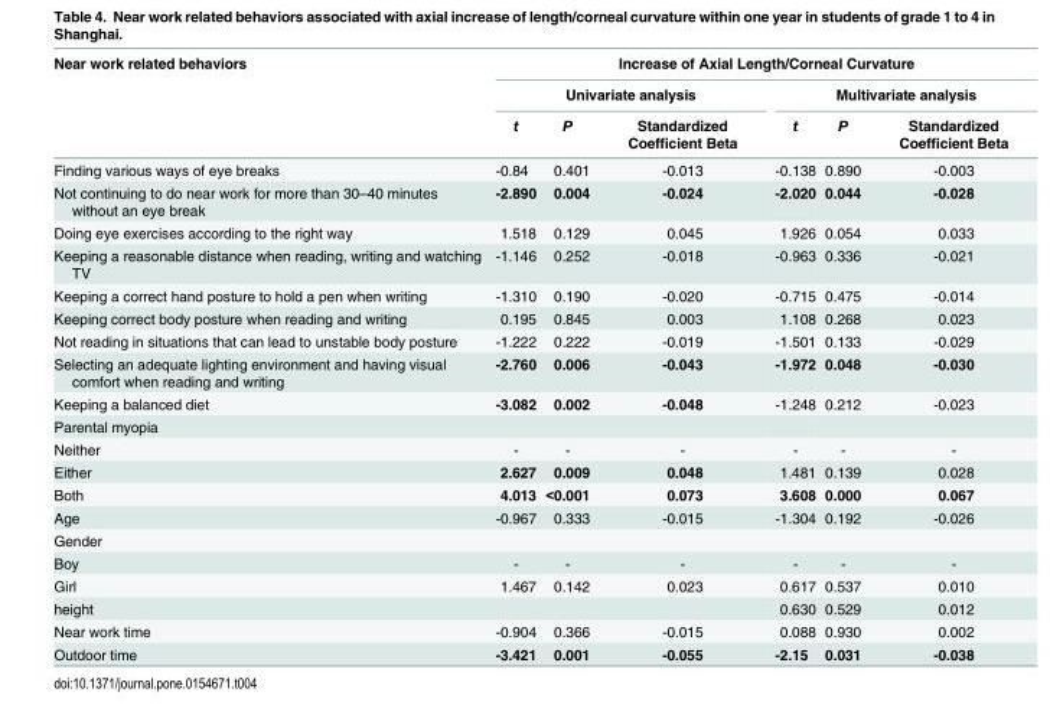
<table><thead><tr><td rowspan="3">Near work related behaviors</td><td colspan="6">Increase of Axial Length/Corneal Curvature</td></tr><tr><td colspan="3">Univariate analysis</td><td colspan="3">Multivariate analysis</td></tr><tr><td>t</td><td>P</td><td>Standardized Coefficient Beta</td><td>t</td><td>P</td><td>Standardized Coefficient Beta</td></tr></thead><tbody><tr><td>Finding various ways of eye breaks</td><td>-0.84</td><td>0.401</td><td>-0.013</td><td>-0.138</td><td>0.890</td><td>-0.003</td></tr><tr><td>Not continuing to do near work for more than 30–40 minutes without an eye break</td><td>-2.890</td><td>0.004</td><td>-0.024</td><td>-2.020</td><td>0.044</td><td>-0.028</td></tr><tr><td>Doing eye exercises according to the right way</td><td>1.518</td><td>0.129</td><td>0.045</td><td>1.926</td><td>0.054</td><td>0.033</td></tr><tr><td>Keeping a reasonable distance when reading, writing and watching TV</td><td>-1.146</td><td>0.252</td><td>-0.018</td><td>-0.963</td><td>0.336</td><td>-0.021</td></tr><tr><td>Keeping a correct hand posture to hold a pen when writing</td><td>-1.310</td><td>0.190</td><td>-0.020</td><td>-0.715</td><td>0.475</td><td>-0.014</td></tr><tr><td>Keeping correct body posture when reading and writing</td><td>0.195</td><td>0.845</td><td>0.003</td><td>1.108</td><td>0.268</td><td>0.023</td></tr><tr><td>Not reading in situations that can lead to unstable body posture</td><td>-1.222</td><td>0.222</td><td>-0.019</td><td>-1.501</td><td>0.133</td><td>-0.029</td></tr><tr><td>Selecting an adequate lighting environment and having visual comfort when reading and writing</td><td>-2.760</td><td>0.006</td><td>-0.043</td><td>-1.972</td><td>0.048</td><td>-0.030</td></tr><tr><td>Keeping a balanced diet</td><td>-3.082</td><td>0.002</td><td>-0.048</td><td>-1.248</td><td>0.212</td><td>-0.023</td></tr><tr><td colspan="7">Parental myopia</td></tr><tr><td>Neither</td><td>-</td><td>-</td><td>-</td><td>-</td><td>-</td><td>-</td></tr><tr><td>Either</td><td>2.627</td><td>0.009</td><td>0.048</td><td>1.481</td><td>0.139</td><td>0.028</td></tr><tr><td>Both</td><td>4.013</td><td>&lt;0.001</td><td>0.073</td><td>3.608</td><td>0.000</td><td>0.067</td></tr><tr><td>Age</td><td>-0.967</td><td>0.333</td><td>-0.015</td><td>-1.304</td><td>0.192</td><td>-0.026</td></tr><tr><td colspan="7">Gender</td></tr><tr><td>Boy</td><td>-</td><td>-</td><td>-</td><td>-</td><td>-</td><td>-</td></tr><tr><td>Girl</td><td>1.467</td><td>0.142</td><td>0.023</td><td>0.617</td><td>0.537</td><td>0.010</td></tr><tr><td>height</td><td></td><td></td><td></td><td>0.630</td><td>0.529</td><td>0.012</td></tr><tr><td>Near work time</td><td>-0.904</td><td>0.366</td><td>-0.015</td><td>0.088</td><td>0.930</td><td>0.002</td></tr><tr><td>Outdoor time</td><td>-3.421</td><td>0.001</td><td>-0.055</td><td>-2.15</td><td>0.031</td><td>-0.038</td></tr></tbody></table>